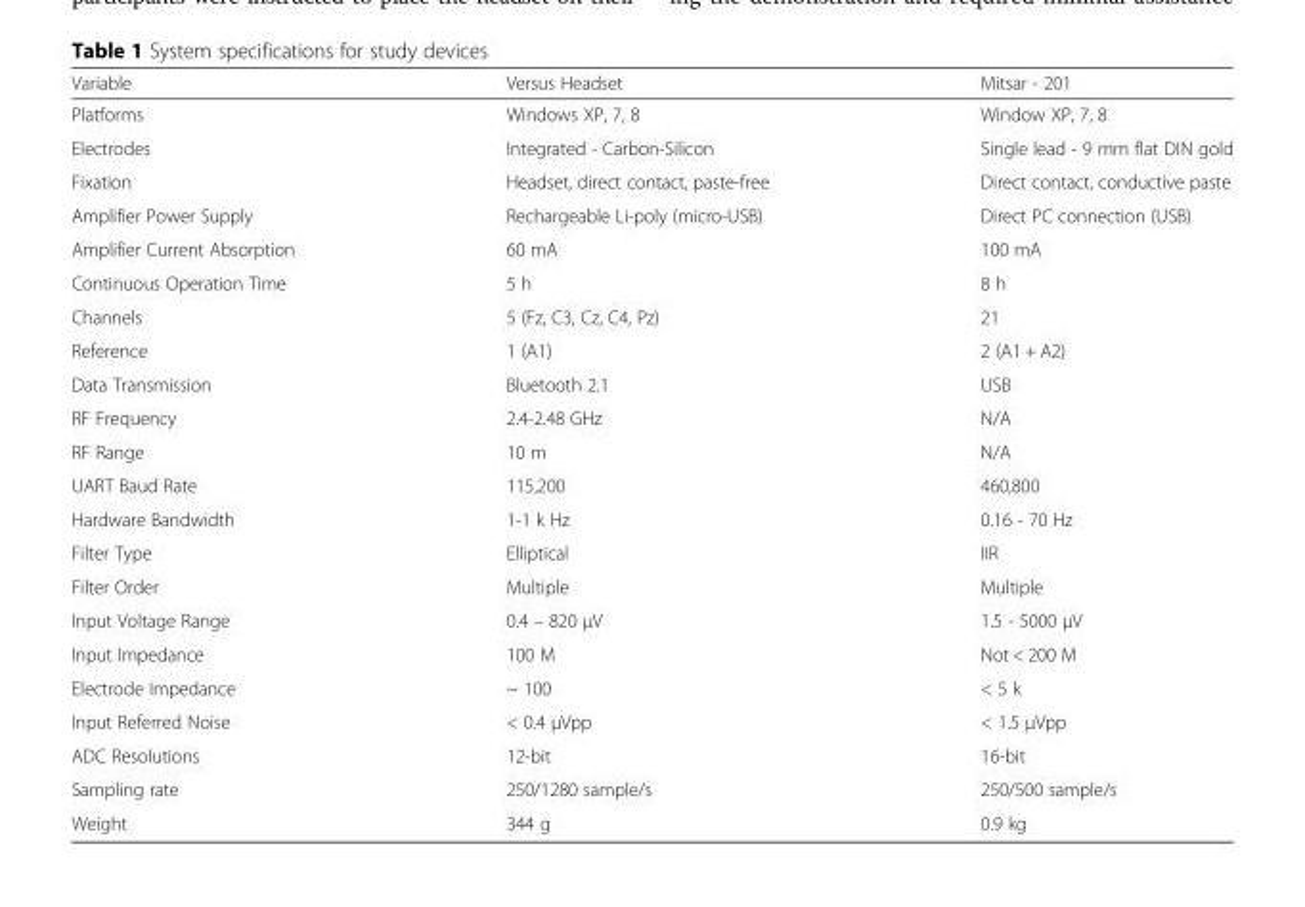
<table><thead><tr><td>Variable</td><td>Versus Headset</td><td>Mitsar - 201</td></tr></thead><tbody><tr><td>Platforms</td><td>Windows XP, 7, 8</td><td>Window XP, 7, 8</td></tr><tr><td>Electrodes</td><td>Integrated - Carbon-Silicon</td><td>Single lead - 9 mm flat DIN gold</td></tr><tr><td>Fixation</td><td>Headset, direct contact, paste-free</td><td>Direct contact, conductive paste</td></tr><tr><td>Amplifier Power Supply</td><td>Rechargeable Li-poly (micro-USB)</td><td>Direct PC connection (USB)</td></tr><tr><td>Amplifier Current Absorption</td><td>60 mA</td><td>100 mA</td></tr><tr><td>Continuous Operation Time</td><td>5 h</td><td>8 h</td></tr><tr><td>Channels</td><td>5 (Fz, C3, Cz, C4, Pz)</td><td>21</td></tr><tr><td>Reference</td><td>1 (A1)</td><td>2 (A1 + A2)</td></tr><tr><td>Data Transmission</td><td>Bluetooth 2.1</td><td>USB</td></tr><tr><td>RF Frequency</td><td>2.4-2.48 GHz</td><td>N/A</td></tr><tr><td>RF Range</td><td>10 m</td><td>N/A</td></tr><tr><td>UART Baud Rate</td><td>115,200</td><td>460,800</td></tr><tr><td>Hardware Bandwidth</td><td>1-1 k Hz</td><td>0.16 - 70 Hz</td></tr><tr><td>Filter Type</td><td>Elliptical</td><td>IIR</td></tr><tr><td>Filter Order</td><td>Multiple</td><td>Multiple</td></tr><tr><td>Input Voltage Range</td><td>0.4 – 820 μV</td><td>1.5 - 5000 μV</td></tr><tr><td>Input Impedance</td><td>100 M</td><td>Not &lt; 200 M</td></tr><tr><td>Electrode Impedance</td><td>~ 100</td><td>&lt; 5 k</td></tr><tr><td>Input Referred Noise</td><td>&lt; 0.4 μVpp</td><td>&lt; 1.5 μVpp</td></tr><tr><td>ADC Resolutions</td><td>12-bit</td><td>16-bit</td></tr><tr><td>Sampling rate</td><td>250/1280 sample/s</td><td>250/500 sample/s</td></tr><tr><td>Weight</td><td>344 g</td><td>0.9 kg</td></tr></tbody></table>